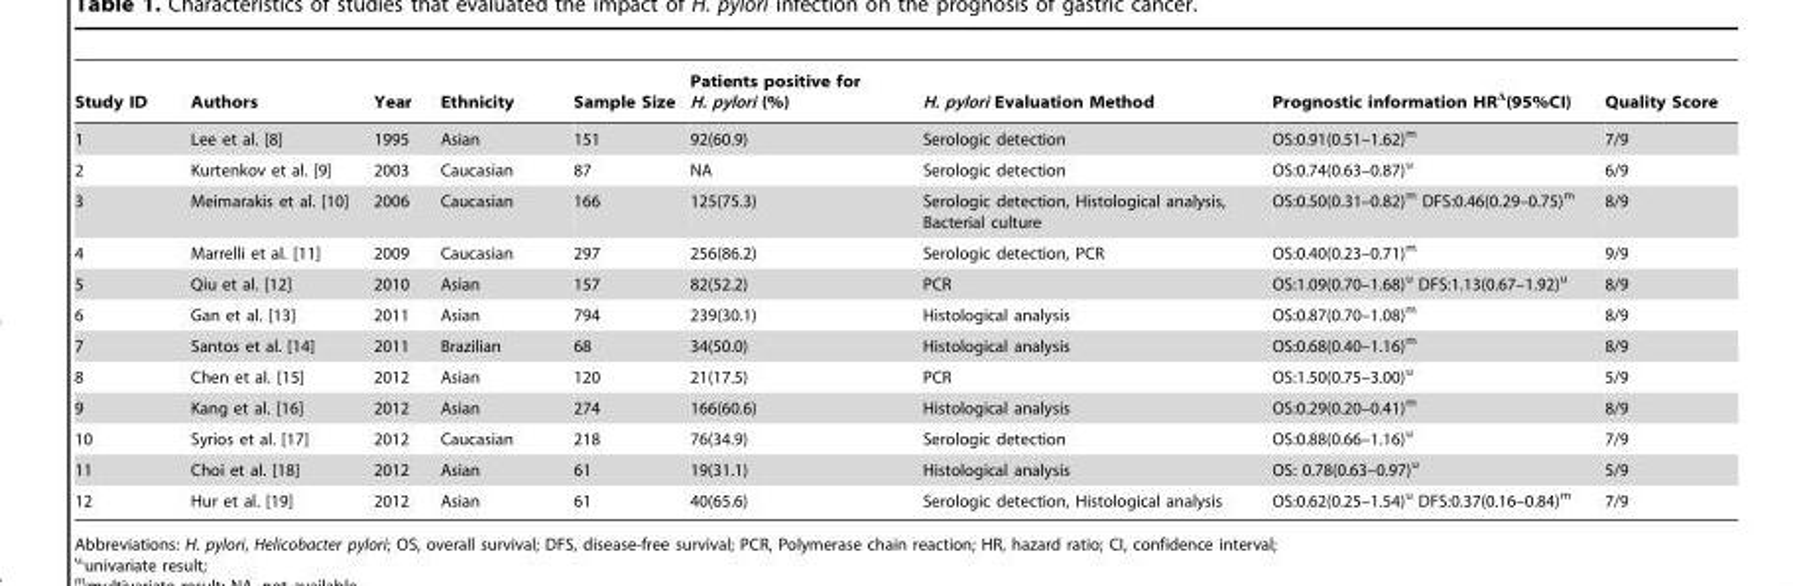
<table><thead><tr><td>Study ID</td><td>Authors</td><td>Year</td><td>Ethnicity</td><td>Sample Size</td><td>Patients positive for H. pylori (%)</td><td>H. pylori Evaluation Method</td><td>Prognostic information HRΔ(95%CI)</td><td>Quality Score</td></tr></thead><tbody><tr><td>1</td><td>Lee et al. [8]</td><td>1995</td><td>Asian</td><td>151</td><td>92(60.9)</td><td>Serologic detection</td><td>OS:0.91(0.51–1.62)<sup>m</sup></td><td>7/9</td></tr><tr><td>2</td><td>Kurtenkov et al. [9]</td><td>2003</td><td>Caucasian</td><td>87</td><td>NA</td><td>Serologic detection</td><td>OS:0.74(0.63–0.87)<sup>u</sup></td><td>6/9</td></tr><tr><td>3</td><td>Meimarakis et al. [10]</td><td>2006</td><td>Caucasian</td><td>166</td><td>125(75.3)</td><td>Serologic detection, Histological analysis, Bacterial culture</td><td>OS:0.50(0.31–0.82)<sup>m</sup> DFS:0.46(0.29–0.75)<sup>m</sup></td><td>8/9</td></tr><tr><td>4</td><td>Marrelli et al. [11]</td><td>2009</td><td>Caucasian</td><td>297</td><td>256(86.2)</td><td>Serologic detection, PCR</td><td>OS:0.40(0.23–0.71)<sup>m</sup></td><td>9/9</td></tr><tr><td>5</td><td>Qiu et al. [12]</td><td>2010</td><td>Asian</td><td>157</td><td>82(52.2)</td><td>PCR</td><td>OS:1.09(0.70–1.68)<sup>u</sup> DFS:1.13(0.67–1.92)<sup>u</sup></td><td>8/9</td></tr><tr><td>6</td><td>Gan et al. [13]</td><td>2011</td><td>Asian</td><td>794</td><td>239(30.1)</td><td>Histological analysis</td><td>OS:0.87(0.70–1.08)<sup>m</sup></td><td>8/9</td></tr><tr><td>7</td><td>Santos et al. [14]</td><td>2011</td><td>Brazilian</td><td>68</td><td>34(50.0)</td><td>Histological analysis</td><td>OS:0.68(0.40–1.16)<sup>m</sup></td><td>8/9</td></tr><tr><td>8</td><td>Chen et al. [15]</td><td>2012</td><td>Asian</td><td>120</td><td>21(17.5)</td><td>PCR</td><td>OS:1.50(0.75–3.00)<sup>u</sup></td><td>5/9</td></tr><tr><td>9</td><td>Kang et al. [16]</td><td>2012</td><td>Asian</td><td>274</td><td>166(60.6)</td><td>Histological analysis</td><td>OS:0.29(0.20–0.41)<sup>m</sup></td><td>8/9</td></tr><tr><td>10</td><td>Syrios et al. [17]</td><td>2012</td><td>Caucasian</td><td>218</td><td>76(34.9)</td><td>Serologic detection</td><td>OS:0.88(0.66–1.16)<sup>u</sup></td><td>7/9</td></tr><tr><td>11</td><td>Choi et al. [18]</td><td>2012</td><td>Asian</td><td>61</td><td>19(31.1)</td><td>Histological analysis</td><td>OS: 0.78(0.63–0.97)<sup>u</sup></td><td>5/9</td></tr><tr><td>12</td><td>Hur et al. [19]</td><td>2012</td><td>Asian</td><td>61</td><td>40(65.6)</td><td>Serologic detection, Histological analysis</td><td>OS:0.62(0.25–1.54)<sup>u</sup> DFS:0.37(0.16–0.84)<sup>m</sup></td><td>7/9</td></tr></tbody></table>